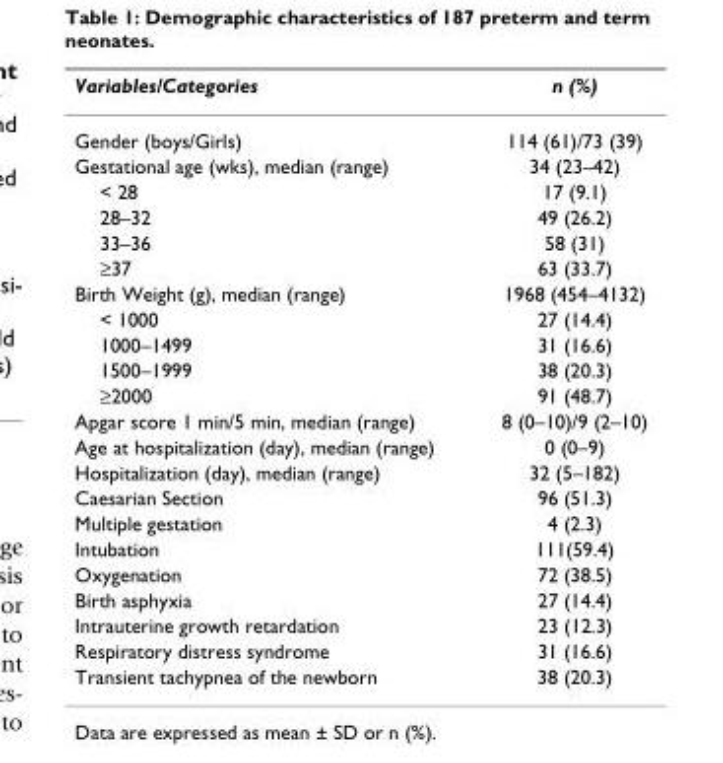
<table><thead><tr><td>Variables/Categories</td><td>n (%)</td></tr></thead><tbody><tr><td>Gender (boys/Girls)</td><td>114 (61)/73 (39)</td></tr><tr><td>Gestational age (wks), median (range)</td><td>34 (23–42)</td></tr><tr><td>&lt; 28</td><td>17 (9.1)</td></tr><tr><td>28–32</td><td>49 (26.2)</td></tr><tr><td>33–36</td><td>58 (31)</td></tr><tr><td>≥37</td><td>63 (33.7)</td></tr><tr><td>Birth Weight (g), median (range)</td><td>1968 (454–4132)</td></tr><tr><td>&lt; 1000</td><td>27 (14.4)</td></tr><tr><td>1000–1499</td><td>31 (16.6)</td></tr><tr><td>1500–1999</td><td>38 (20.3)</td></tr><tr><td>≥2000</td><td>91 (48.7)</td></tr><tr><td>Apgar score 1 min/5 min, median (range)</td><td>8 (0–10)/9 (2–10)</td></tr><tr><td>Age at hospitalization (day), median (range)</td><td>0 (0–9)</td></tr><tr><td>Hospitalization (day), median (range)</td><td>32 (5–182)</td></tr><tr><td>Caesarian Section</td><td>96 (51.3)</td></tr><tr><td>Multiple gestation</td><td>4 (2.3)</td></tr><tr><td>Intubation</td><td>111(59.4)</td></tr><tr><td>Oxygenation</td><td>72 (38.5)</td></tr><tr><td>Birth asphyxia</td><td>27 (14.4)</td></tr><tr><td>Intrauterine growth retardation</td><td>23 (12.3)</td></tr><tr><td>Respiratory distress syndrome</td><td>31 (16.6)</td></tr><tr><td>Transient tachypnea of the newborn</td><td>38 (20.3)</td></tr></tbody></table>